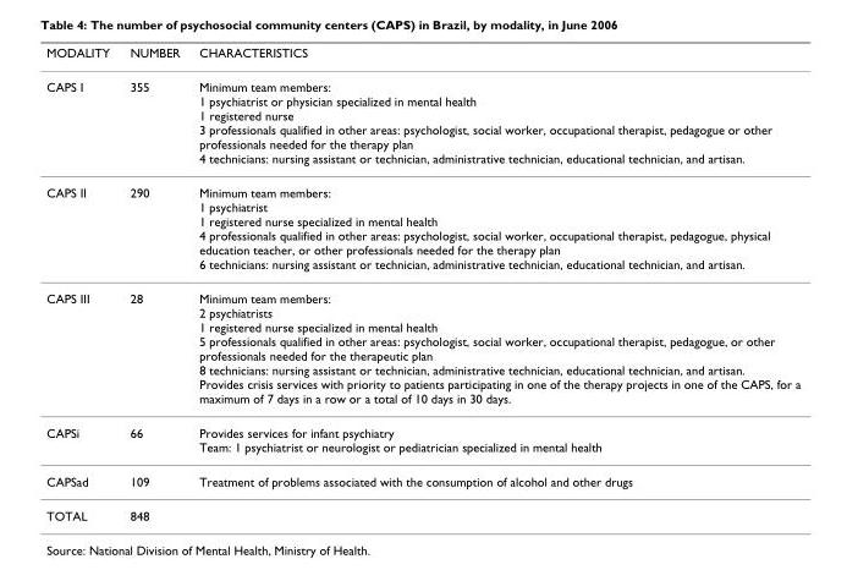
<table><thead><tr><td>MODALITY</td><td>NUMBER</td><td>CHARACTERISTICS</td></tr></thead><tbody><tr><td>CAPS I</td><td>355</td><td>Minimum team members: 1 psychiatrist or physician specialized in mental health 1 registered nurse 3 professionals qualified in other areas: psychologist, social worker, occupational therapist, pedagogue or other professionals needed for the therapy plan 4 technicians: nursing assistant or technician, administrative technician, educational technician, and artisan.</td></tr><tr><td>CAPS II</td><td>290</td><td>Minimum team members: 1 psychiatrist 1 registered nurse specialized in mental health 4 professionals qualified in other areas: psychologist, social worker, occupational therapist, pedagogue, physical education teacher, or other professionals needed for the therapy plan 6 technicians: nursing assistant or technician, administrative technician, educational technician, and artisan.</td></tr><tr><td>CAPS III</td><td>28</td><td>Minimum team members: 2 psychiatrists 1 registered nurse specialized in mental health 5 professionals qualified in other areas: psychologist, social worker, occupational therapist, pedagogue, or other professionals needed for the therapeutic plan 8 technicians: nursing assistant or technician, administrative technician, educational technician, and artisan. Provides crisis services with priority to patients participating in one of the therapy projects in one of the CAPS, for a maximum of 7 days in a row or a total of 10 days in 30 days.</td></tr><tr><td>CAPSi</td><td>66</td><td>Provides services for infant psychiatry Team: 1 psychiatrist or neurologist or pediatrician specialized in mental health</td></tr><tr><td>CAPSad</td><td>109</td><td>Treatment of problems associated with the consumption of alcohol and other drugs</td></tr><tr><td>TOTAL</td><td>848</td><td></td></tr></tbody></table>